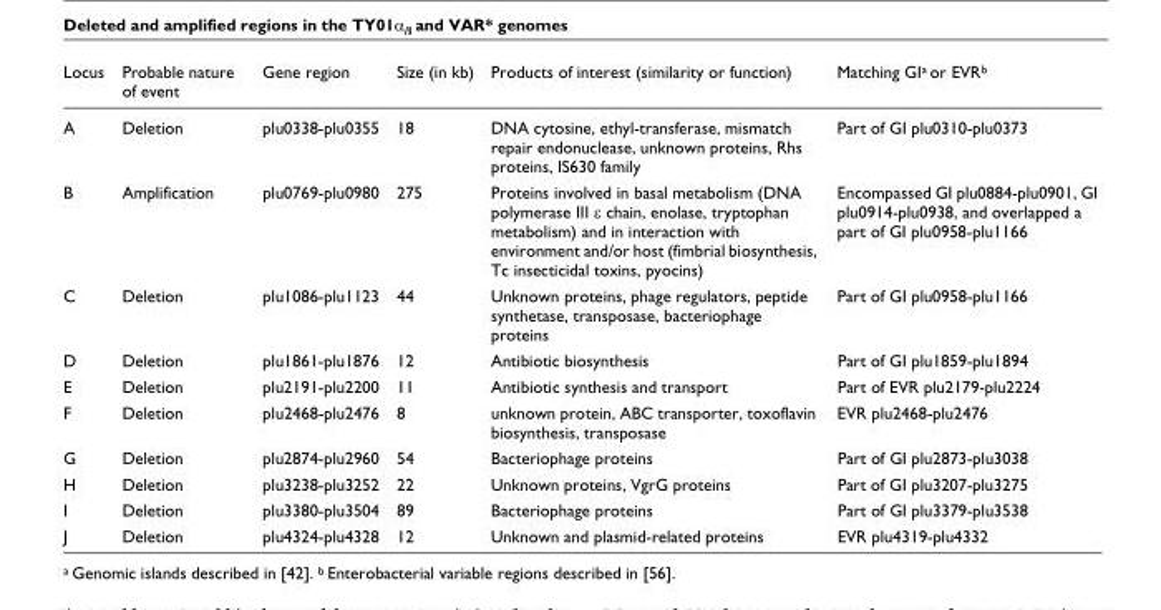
<table><thead><tr><td>Locus</td><td>Probable nature of event</td><td>Gene region</td><td>Size (in kb)</td><td>Products of interest (similarity or function)</td><td>Matching GI<sup>a</sup> or EVR<sup>b</sup></td></tr></thead><tbody><tr><td>A</td><td>Deletion</td><td>plu0338-plu0355</td><td>18</td><td>DNA cytosine, ethyl-transferase, mismatch repair endonuclease, unknown proteins, Rhs proteins, IS630 family</td><td>Part of GI plu0310-plu0373</td></tr><tr><td>B</td><td>Amplification</td><td>plu0769-plu0980</td><td>275</td><td>Proteins involved in basal metabolism (DNA polymerase III ε chain, enolase, tryptophan metabolism) and in interaction with environment and/or host (fimbrial biosynthesis, Tc insecticidal toxins, pyocins)</td><td>Encompassed GI plu0884-plu0901, GI plu0914-plu0938, and overlapped a part of GI plu0958-plu1166</td></tr><tr><td>C</td><td>Deletion</td><td>plu1086-plu1123</td><td>44</td><td>Unknown proteins, phage regulators, peptide synthetase, transposase, bacteriophage proteins</td><td>Part of GI plu0958-plu1166</td></tr><tr><td>D</td><td>Deletion</td><td>plu1861-plu1876</td><td>12</td><td>Antibiotic biosynthesis</td><td>Part of GI plu1859-plu1894</td></tr><tr><td>E</td><td>Deletion</td><td>plu2191-plu2200</td><td>11</td><td>Antibiotic synthesis and transport</td><td>Part of EVR plu2179-plu2224</td></tr><tr><td>F</td><td>Deletion</td><td>plu2468-plu2476</td><td>8</td><td>unknown protein, ABC transporter, toxoflavin biosynthesis, transposase</td><td>EVR plu2468-plu2476</td></tr><tr><td>G</td><td>Deletion</td><td>plu2874-plu2960</td><td>54</td><td>Bacteriophage proteins</td><td>Part of GI plu2873-plu3038</td></tr><tr><td>H</td><td>Deletion</td><td>plu3238-plu3252</td><td>22</td><td>Unknown proteins, VgrG proteins</td><td>Part of GI plu3207-plu3275</td></tr><tr><td>I</td><td>Deletion</td><td>plu3380-plu3504</td><td>89</td><td>Bacteriophage proteins</td><td>Part of GI plu3379-plu3538</td></tr><tr><td>J</td><td>Deletion</td><td>plu4324-plu4328</td><td>12</td><td>Unknown and plasmid-related proteins</td><td>EVR plu4319-plu4332</td></tr></tbody></table>